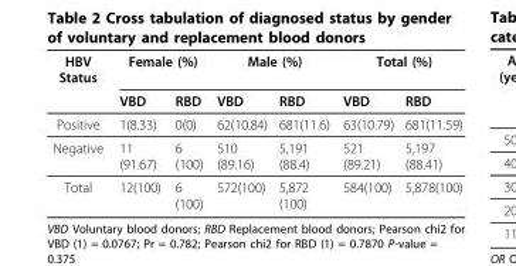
<table><thead><tr><td rowspan="2">HBV Status</td><td colspan="2">Female (%)</td><td colspan="2">Male (%)</td><td colspan="2">Total (%)</td></tr><tr><td>VBD</td><td>RBD</td><td>VBD</td><td>RBD</td><td>VBD</td><td>RBD</td></tr></thead><tbody><tr><td>Positive</td><td>1(8.33)</td><td>0(0)</td><td>62(10.84)</td><td>681(11.6)</td><td>63(10.79)</td><td>681(11.59)</td></tr><tr><td>Negative</td><td>11 (91.67)</td><td>6 (100)</td><td>510 (89.16)</td><td>5,191 (88.4)</td><td>521 (89.21)</td><td>5,197 (88.41)</td></tr><tr><td>Total</td><td>12(100)</td><td>6 (100)</td><td>572(100)</td><td>5,872 (100)</td><td>584(100)</td><td>5,878(100)</td></tr></tbody></table>